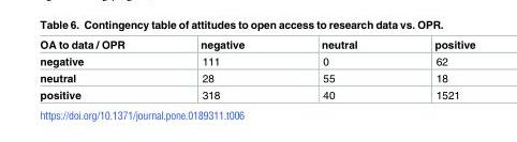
<table><thead><tr><td>OA to data / OPR</td><td>negative</td><td>neutral</td><td>positive</td></tr></thead><tbody><tr><td>negative</td><td>111</td><td>0</td><td>62</td></tr><tr><td>neutral</td><td>28</td><td>55</td><td>18</td></tr><tr><td>positive</td><td>318</td><td>40</td><td>1521</td></tr></tbody></table>